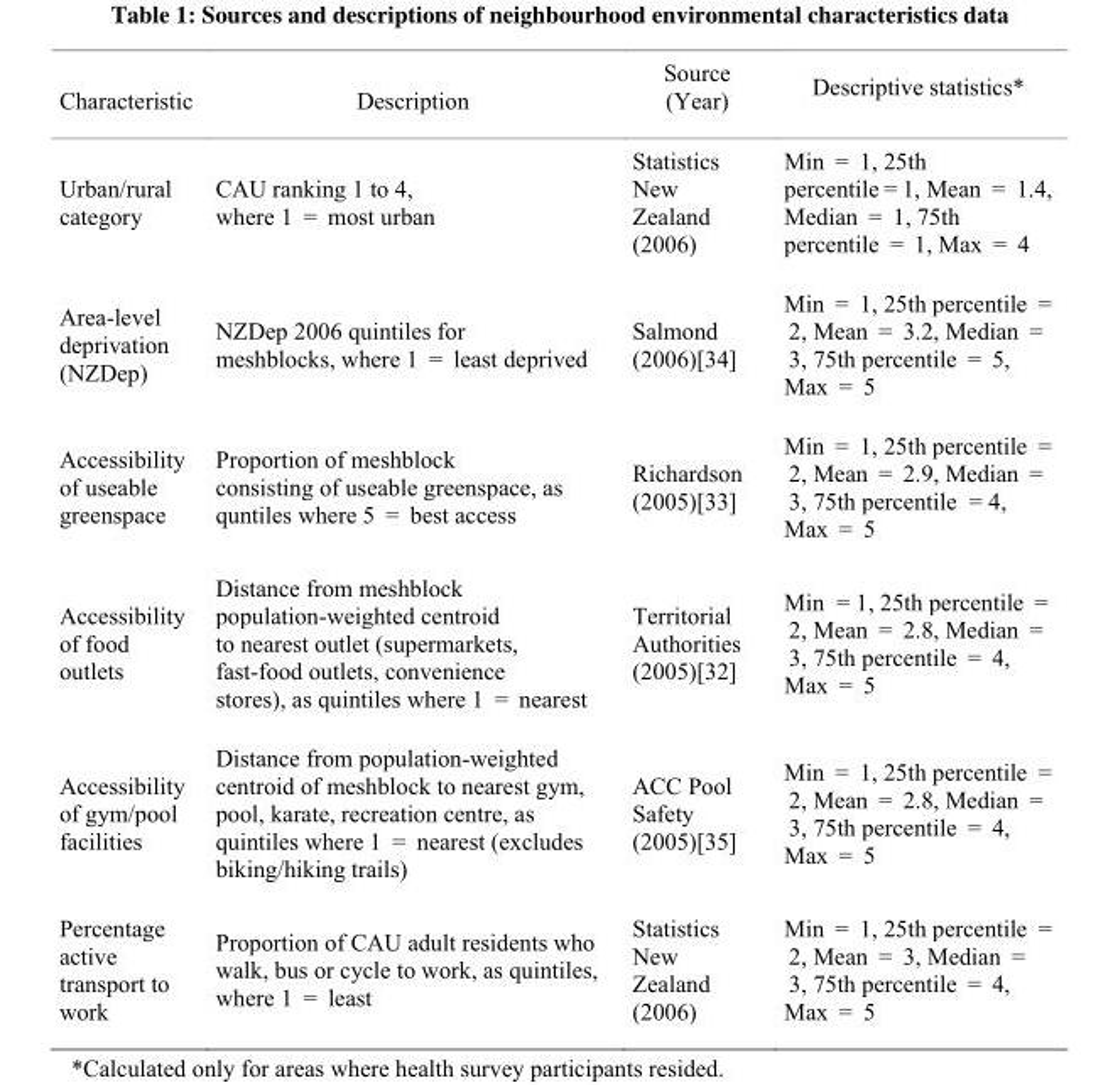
<table><thead><tr><td>Characteristic</td><td>Description</td><td>Source (Year)</td><td>Descriptive statistics*</td></tr></thead><tbody><tr><td>Urban/rural category</td><td>CAU ranking 1 to 4, where 1 = most urban</td><td>Statistics New Zealand (2006)</td><td>Min = 1, 25th percentile = 1, Mean = 1.4, Median = 1, 75th percentile = 1, Max = 4</td></tr><tr><td>Area-level deprivation (NZDep)</td><td>NZDep 2006 quintiles for meshblocks, where 1 = least deprived</td><td>Salmond (2006)[34]</td><td>Min = 1, 25th percentile = 2, Mean = 3.2, Median = 3, 75th percentile = 5, Max = 5</td></tr><tr><td>Accessibility of useable greenspace</td><td>Proportion of meshblock consisting of useable greenspace, as quntiles where 5 = best access</td><td>Richardson (2005)[33]</td><td>Min = 1, 25th percentile = 2, Mean = 2.9, Median = 3, 75th percentile = 4, Max = 5</td></tr><tr><td>Accessibility of food outlets</td><td>Distance from meshblock population-weighted centroid to nearest outlet (supermarkets, fast-food outlets, convenience stores), as quintiles where 1 = nearest</td><td>Territorial Authorities (2005)[32]</td><td>Min = 1, 25th percentile = 2, Mean = 2.8, Median = 3, 75th percentile = 4, Max = 5</td></tr><tr><td>Accessibility of gym/pool facilities</td><td>Distance from population-weighted centroid of meshblock to nearest gym, pool, karate, recreation centre, as quintiles where 1 = nearest (excludes biking/hiking trails)</td><td>ACC Pool Safety (2005)[35]</td><td>Min = 1, 25th percentile = 2, Mean = 2.8, Median = 3, 75th percentile = 4, Max = 5</td></tr><tr><td>Percentage active transport to work</td><td>Proportion of CAU adult residents who walk, bus or cycle to work, as quintiles, where 1 = least</td><td>Statistics New Zealand (2006)</td><td>Min = 1, 25th percentile = 2, Mean = 3, Median = 3, 75th percentile = 4, Max = 5</td></tr></tbody></table>